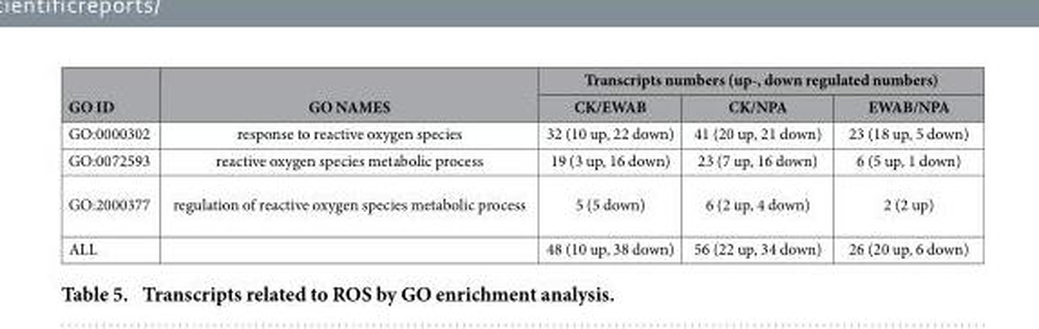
<table><thead><tr><td rowspan="2">GO ID</td><td rowspan="2">GO NAMES</td><td colspan="3">Transcripts numbers (up-, down regulated numbers)</td></tr><tr><td>CK/EWAB</td><td>CK/NPA</td><td>EWAB/NPA</td></tr></thead><tbody><tr><td>GO:0000302</td><td>response to reactive oxygen species</td><td>32 (10 up, 22 down)</td><td>41 (20 up, 21 down)</td><td>23 (18 up, 5 down)</td></tr><tr><td>GO:0072593</td><td>reactive oxygen species metabolic process</td><td>19 (3 up, 16 down)</td><td>23 (7 up, 16 down)</td><td>6 (5 up, 1 down)</td></tr><tr><td>GO:2000377</td><td>regulation of reactive oxygen species metabolic process</td><td>5 (5 down)</td><td>6 (2 up, 4 down)</td><td>2 (2 up)</td></tr><tr><td>ALL</td><td></td><td>48 (10 up, 38 down)</td><td>56 (22 up, 34 down)</td><td>26 (20 up, 6 down)</td></tr></tbody></table>